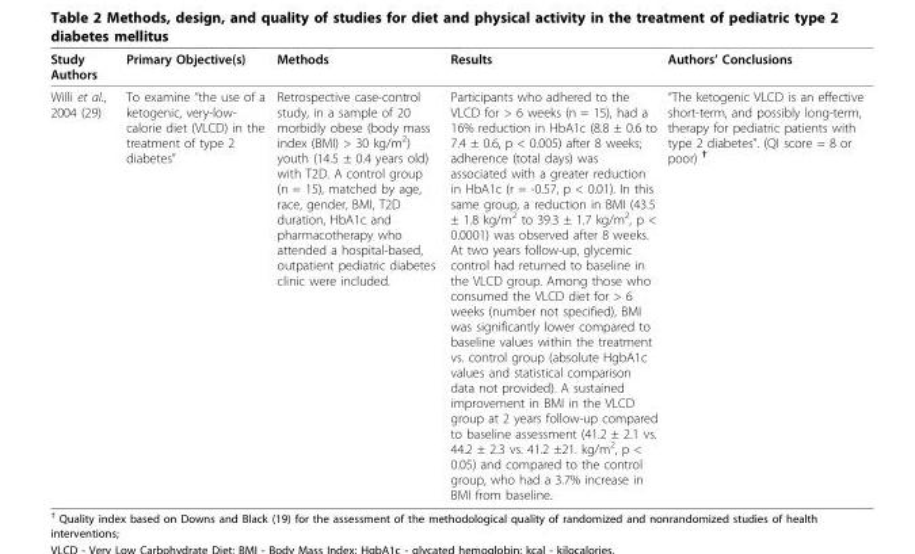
<table><thead><tr><td>Study Authors</td><td>Primary Objective(s)</td><td>Methods</td><td>Results</td><td>Authors’ Conclusions</td></tr></thead><tbody><tr><td>Willi et al., 2004 (29)</td><td>To examine “the use of a ketogenic, very-low- calorie diet (VLCD) in the treatment of type 2 diabetes”</td><td>Retrospective case-control study, in a sample of 20 morbidly obese (body mass index (BMI) &gt; 30 kg/m<sup>2</sup>) youth (14.5 ± 0.4 years old) with T2D. A control group (n = 15), matched by age, race, gender, BMI, T2D duration, HbA1c and pharmacotherapy who attended a hospital-based, outpatient pediatric diabetes clinic were included.</td><td>Participants who adhered to the VLCD for &gt; 6 weeks (n = 15), had a 16% reduction in HbA1c (8.8 ± 0.6 to 7.4 ± 0.6, p &lt; 0.005) after 8 weeks; adherence (total days) was associated with a greater reduction in HbA1c (r = -0.57, p &lt; 0.01). In this same group, a reduction in BMI (43.5 ± 1.8 kg/m<sup>2</sup> to 39.3 ± 1.7 kg/m<sup>2</sup>, p &lt; 0.0001) was observed after 8 weeks. At two years follow-up, glycemic control had returned to baseline in the VLCD group. Among those who consumed the VLCD diet for &gt; 6 weeks (number not specified), BMI was significantly lower compared to baseline values within the treatment vs. control group (absolute HgbA1c values and statistical comparison data not provided). A sustained improvement in BMI in the VLCD group at 2 years follow-up compared to baseline assessment (41.2 ± 2.1 vs. 44.2 ± 2.3 vs. 41.2 ±21. kg/m<sup>2</sup>, p &lt; 0.05) and compared to the control group, who had a 3.7% increase in BMI from baseline.</td><td>“The ketogenic VLCD is an effective short-term, and possibly long-term, therapy for pediatric patients with type 2 diabetes”. (QI score = 8 or poor) †</td></tr></tbody></table>